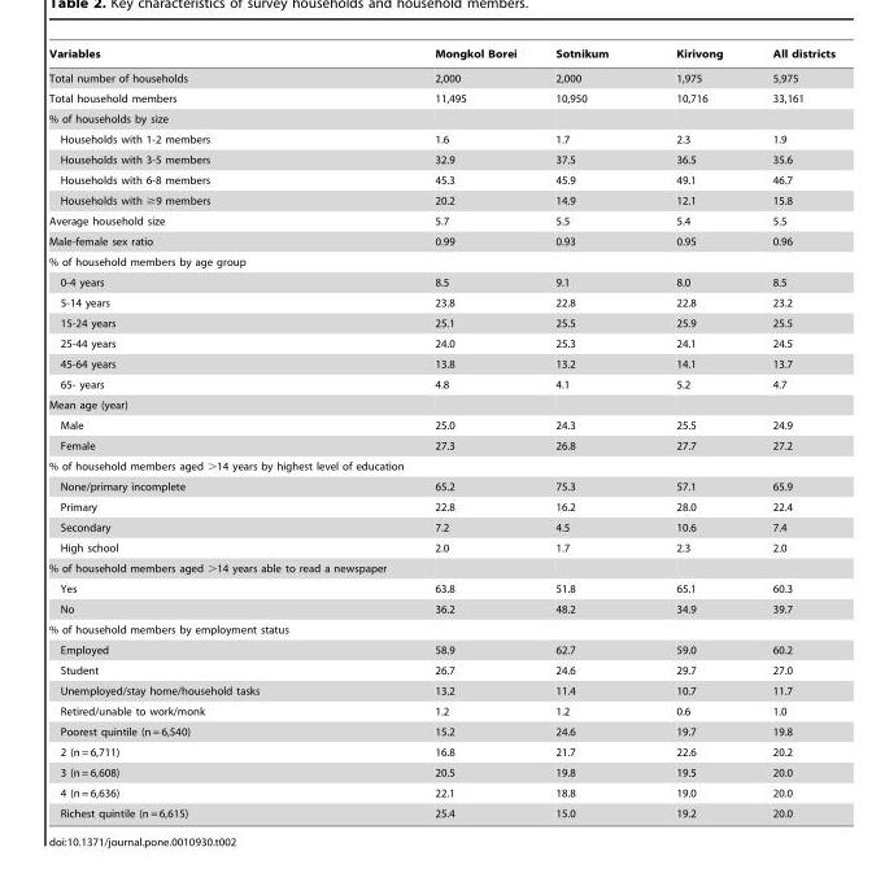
<table><thead><tr><td>Variables</td><td>Mongkol Borei</td><td>Sotnikum</td><td>Kirivong</td><td>All districts</td></tr></thead><tbody><tr><td>Total number of households</td><td>2,000</td><td>2,000</td><td>1,975</td><td>5,975</td></tr><tr><td>Total household members</td><td>11,495</td><td>10,950</td><td>10,716</td><td>33,161</td></tr><tr><td colspan="5">% of households by size</td></tr><tr><td>Households with 1-2 members</td><td>1.6</td><td>1.7</td><td>2.3</td><td>1.9</td></tr><tr><td>Households with 3-5 members</td><td>32.9</td><td>37.5</td><td>36.5</td><td>35.6</td></tr><tr><td>Households with 6-8 members</td><td>45.3</td><td>45.9</td><td>49.1</td><td>46.7</td></tr><tr><td>Households with ≥9 members</td><td>20.2</td><td>14.9</td><td>12.1</td><td>15.8</td></tr><tr><td>Average household size</td><td>5.7</td><td>5.5</td><td>5.4</td><td>5.5</td></tr><tr><td>Male-female sex ratio</td><td>0.99</td><td>0.93</td><td>0.95</td><td>0.96</td></tr><tr><td colspan="5">% of household members by age group</td></tr><tr><td>0-4 years</td><td>8.5</td><td>9.1</td><td>8.0</td><td>8.5</td></tr><tr><td>5-14 years</td><td>23.8</td><td>22.8</td><td>22.8</td><td>23.2</td></tr><tr><td>15-24 years</td><td>25.1</td><td>25.5</td><td>25.9</td><td>25.5</td></tr><tr><td>25-44 years</td><td>24.0</td><td>25.3</td><td>24.1</td><td>24.5</td></tr><tr><td>45-64 years</td><td>13.8</td><td>13.2</td><td>14.1</td><td>13.7</td></tr><tr><td>65- years</td><td>4.8</td><td>4.1</td><td>5.2</td><td>4.7</td></tr><tr><td colspan="5">Mean age (year)</td></tr><tr><td>Male</td><td>25.0</td><td>24.3</td><td>25.5</td><td>24.9</td></tr><tr><td>Female</td><td>27.3</td><td>26.8</td><td>27.7</td><td>27.2</td></tr><tr><td colspan="5">% of household members aged &gt;14 years by highest level of education</td></tr><tr><td>None/primary incomplete</td><td>65.2</td><td>75.3</td><td>57.1</td><td>65.9</td></tr><tr><td>Primary</td><td>22.8</td><td>16.2</td><td>28.0</td><td>22.4</td></tr><tr><td>Secondary</td><td>7.2</td><td>4.5</td><td>10.6</td><td>7.4</td></tr><tr><td>High school</td><td>2.0</td><td>1.7</td><td>2.3</td><td>2.0</td></tr><tr><td colspan="5">% of household members aged &gt;14 years able to read a newspaper</td></tr><tr><td>Yes</td><td>63.8</td><td>51.8</td><td>65.1</td><td>60.3</td></tr><tr><td>No</td><td>36.2</td><td>48.2</td><td>34.9</td><td>39.7</td></tr><tr><td colspan="5">% of household members by employment status</td></tr><tr><td>Employed</td><td>58.9</td><td>62.7</td><td>59.0</td><td>60.2</td></tr><tr><td>Student</td><td>26.7</td><td>24.6</td><td>29.7</td><td>27.0</td></tr><tr><td>Unemployed/stay home/household tasks</td><td>13.2</td><td>11.4</td><td>10.7</td><td>11.7</td></tr><tr><td>Retired/unable to work/monk</td><td>1.2</td><td>1.2</td><td>0.6</td><td>1.0</td></tr><tr><td>Poorest quintile (n = 6,540)</td><td>15.2</td><td>24.6</td><td>19.7</td><td>19.8</td></tr><tr><td>2 (n = 6,711)</td><td>16.8</td><td>21.7</td><td>22.6</td><td>20.2</td></tr><tr><td>3 (n = 6,608)</td><td>20.5</td><td>19.8</td><td>19.5</td><td>20.0</td></tr><tr><td>4 (n = 6,636)</td><td>22.1</td><td>18.8</td><td>19.0</td><td>20.0</td></tr><tr><td>Richest quintile (n = 6,615)</td><td>25.4</td><td>15.0</td><td>19.2</td><td>20.0</td></tr></tbody></table>